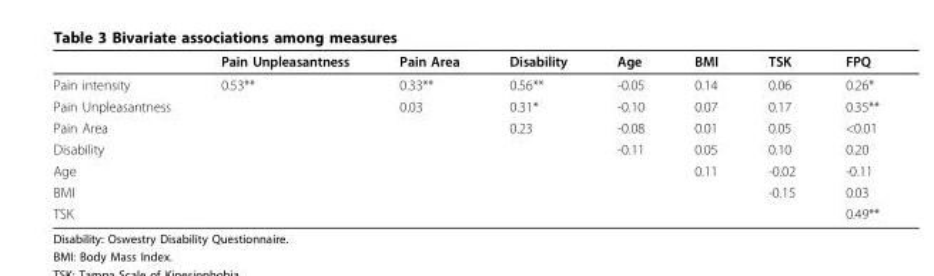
<table><thead><tr><td></td><td>Pain Unpleasantness</td><td>Pain Area</td><td>Disability</td><td>Age</td><td>BMI</td><td>TSK</td><td>FPQ</td></tr></thead><tbody><tr><td>Pain intensity</td><td>0.53**</td><td>0.33**</td><td>0.56**</td><td>-0.05</td><td>0.14</td><td>0.06</td><td>0.26*</td></tr><tr><td>Pain Unpleasantness</td><td></td><td>0.03</td><td>0.31*</td><td>-0.10</td><td>0.07</td><td>0.17</td><td>0.35**</td></tr><tr><td>Pain Area</td><td></td><td></td><td>0.23</td><td>-0.08</td><td>0.01</td><td>0.05</td><td>&lt;0.01</td></tr><tr><td>Disability</td><td></td><td></td><td></td><td>-0.11</td><td>0.05</td><td>0.10</td><td>0.20</td></tr><tr><td>Age</td><td></td><td></td><td></td><td></td><td>0.11</td><td>-0.02</td><td>-0.11</td></tr><tr><td>BMI</td><td></td><td></td><td></td><td></td><td></td><td>-0.15</td><td>0.03</td></tr><tr><td>TSK</td><td></td><td></td><td></td><td></td><td></td><td></td><td>0.49**</td></tr></tbody></table>